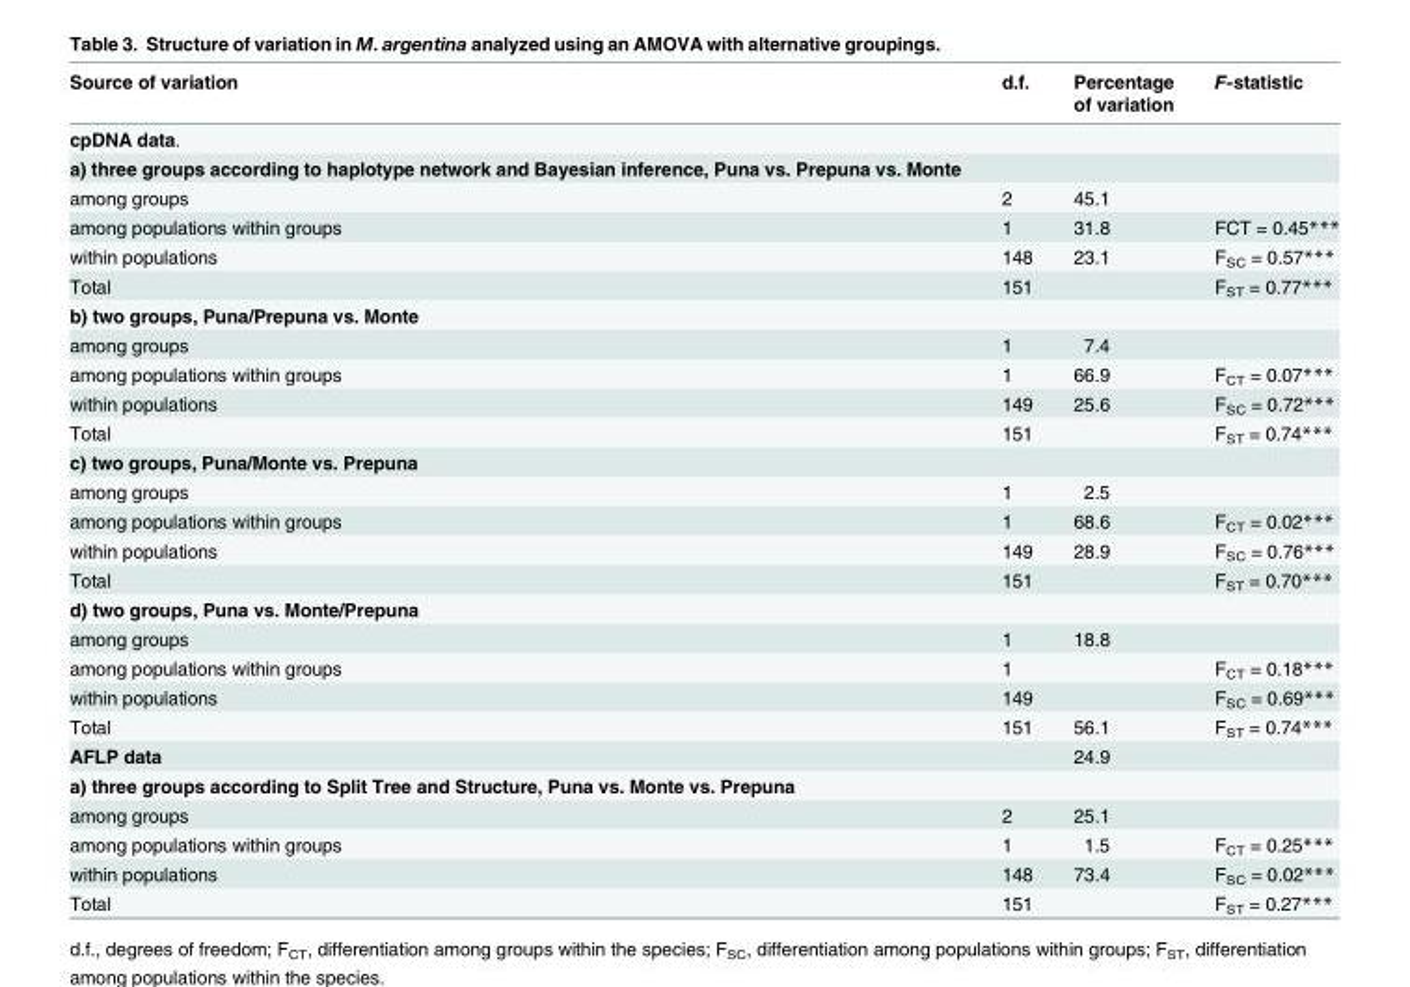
<table><thead><tr><td>Source of variation</td><td>d.f.</td><td>Percentage of variation</td><td>F-statistic</td></tr></thead><tbody><tr><td colspan="4">cpDNA data.</td></tr><tr><td colspan="4">a) three groups according to haplotype network and Bayesian inference, Puna vs. Prepuna vs. Monte</td></tr><tr><td>among groups</td><td>2</td><td>45.1</td><td></td></tr><tr><td>among populations within groups</td><td>1</td><td>31.8</td><td>FCT = 0.45***</td></tr><tr><td>within populations</td><td>148</td><td>23.1</td><td>F<sub>SC</sub> = 0.57***</td></tr><tr><td>Total</td><td>151</td><td></td><td>F<sub>ST</sub> = 0.77***</td></tr><tr><td colspan="4">b) two groups, Puna/Prepuna vs. Monte</td></tr><tr><td>among groups</td><td>1</td><td>7.4</td><td></td></tr><tr><td>among populations within groups</td><td>1</td><td>66.9</td><td>F<sub>CT</sub> = 0.07***</td></tr><tr><td>within populations</td><td>149</td><td>25.6</td><td>F<sub>SC</sub> = 0.72***</td></tr><tr><td>Total</td><td>151</td><td></td><td>F<sub>ST</sub> = 0.74***</td></tr><tr><td colspan="4">c) two groups, Puna/Monte vs. Prepuna</td></tr><tr><td>among groups</td><td>1</td><td>2.5</td><td></td></tr><tr><td>among populations within groups</td><td>1</td><td>68.6</td><td>F<sub>CT</sub> = 0.02***</td></tr><tr><td>within populations</td><td>149</td><td>28.9</td><td>F<sub>SC</sub> = 0.76***</td></tr><tr><td>Total</td><td>151</td><td></td><td>F<sub>ST</sub> = 0.70***</td></tr><tr><td colspan="4">d) two groups, Puna vs. Monte/Prepuna</td></tr><tr><td>among groups</td><td>1</td><td>18.8</td><td></td></tr><tr><td>among populations within groups</td><td>1</td><td></td><td>F<sub>CT</sub> = 0.18***</td></tr><tr><td>within populations</td><td>149</td><td></td><td>F<sub>SC</sub> = 0.69***</td></tr><tr><td>Total</td><td>151</td><td>56.1</td><td>F<sub>ST</sub> = 0.74***</td></tr><tr><td>AFLP data</td><td></td><td>24.9</td><td></td></tr><tr><td colspan="4">a) three groups according to Split Tree and Structure, Puna vs. Monte vs. Prepuna</td></tr><tr><td>among groups</td><td>2</td><td>25.1</td><td></td></tr><tr><td>among populations within groups</td><td>1</td><td>1.5</td><td>F<sub>CT</sub> = 0.25***</td></tr><tr><td>within populations</td><td>148</td><td>73.4</td><td>F<sub>SC</sub> = 0.02***</td></tr><tr><td>Total</td><td>151</td><td></td><td>F<sub>ST</sub> = 0.27***</td></tr></tbody></table>